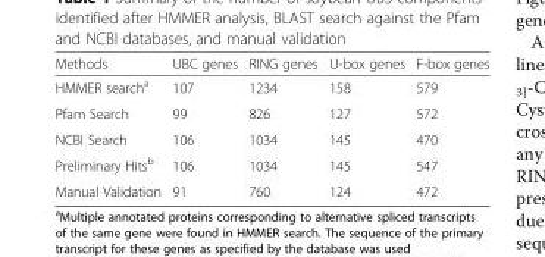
<table><thead><tr><td>Methods</td><td>UBC genes</td><td>RING genes</td><td>U-box genes</td><td>F-box genes</td></tr></thead><tbody><tr><td>HMMER search<sup>a</sup></td><td>107</td><td>1234</td><td>158</td><td>579</td></tr><tr><td>Pfam Search</td><td>99</td><td>826</td><td>127</td><td>572</td></tr><tr><td>NCBI Search</td><td>106</td><td>1034</td><td>145</td><td>470</td></tr><tr><td>Preliminary Hits<sup>b</sup></td><td>106</td><td>1034</td><td>145</td><td>547</td></tr><tr><td>Manual Validation</td><td>91</td><td>760</td><td>124</td><td>472</td></tr></tbody></table>